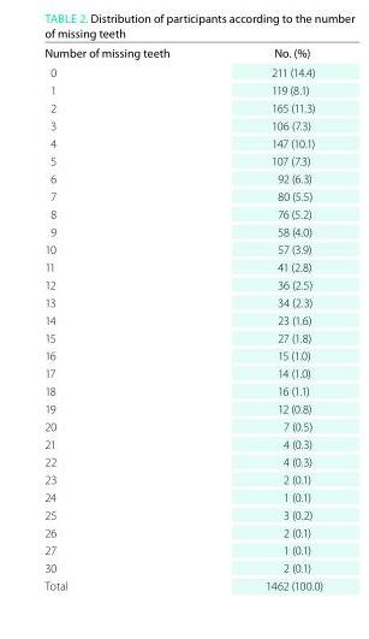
<table><thead><tr><td>number of missing teeth</td><td>no. (%)</td></tr></thead><tbody><tr><td>0</td><td>211 (14.4)</td></tr><tr><td>1</td><td>119 (8.1)</td></tr><tr><td>2</td><td>165 (11.3)</td></tr><tr><td>3</td><td>106 (7.3)</td></tr><tr><td>4</td><td>147 (10.1)</td></tr><tr><td>5</td><td>107 (7.3)</td></tr><tr><td>6</td><td>92 (6.3)</td></tr><tr><td>7</td><td>80 (5.5)</td></tr><tr><td>8</td><td>76 (5.2)</td></tr><tr><td>9</td><td>58 (4.0)</td></tr><tr><td>10</td><td>57 (3.9)</td></tr><tr><td>11</td><td>41 (2.8)</td></tr><tr><td>12</td><td>36 (2.5)</td></tr><tr><td>13</td><td>34 (2.3)</td></tr><tr><td>14</td><td>23 (1.6)</td></tr><tr><td>15</td><td>27 (1.8)</td></tr><tr><td>16</td><td>15 (1.0)</td></tr><tr><td>17</td><td>14 (1.0)</td></tr><tr><td>18</td><td>16 (1.1)</td></tr><tr><td>19</td><td>12 (0.8)</td></tr><tr><td>20</td><td>7 (0.5)</td></tr><tr><td>21</td><td>4 (0.3)</td></tr><tr><td>22</td><td>4 (0.3)</td></tr><tr><td>23</td><td>2 (0.1)</td></tr><tr><td>24</td><td>1 (0.1)</td></tr><tr><td>25</td><td>3 (0.2)</td></tr><tr><td>26</td><td>2 (0.1)</td></tr><tr><td>27</td><td>1 (0.1)</td></tr><tr><td>30</td><td>2 (0.1)</td></tr><tr><td>Total</td><td>1462 (100.0)</td></tr></tbody></table>